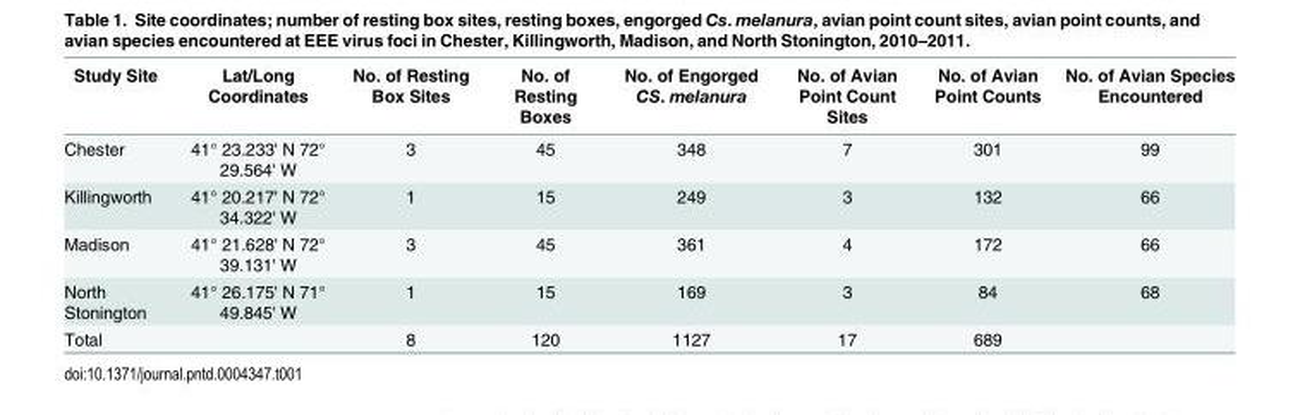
<table><thead><tr><td>Study Site</td><td>Lat/Long Coordinates</td><td>No. of Resting Box Sites</td><td>No. of Resting Boxes</td><td>No. of Engorged CS. melanura</td><td>No. of Avian Point Count Sites</td><td>No. of Avian Point Counts</td><td>No. of Avian Species Encountered</td></tr></thead><tbody><tr><td>Chester</td><td>41° 23.233&#x27; N 72° 29.564&#x27; W</td><td>3</td><td>45</td><td>348</td><td>7</td><td>301</td><td>99</td></tr><tr><td>Killingworth</td><td>41° 20.217&#x27; N 72° 34.322&#x27; W</td><td>1</td><td>15</td><td>249</td><td>3</td><td>132</td><td>66</td></tr><tr><td>Madison</td><td>41° 21.628&#x27; N 72° 39.131&#x27; W</td><td>3</td><td>45</td><td>361</td><td>4</td><td>172</td><td>66</td></tr><tr><td>North Stonington</td><td>41° 26.175&#x27; N 71° 49.845&#x27; W</td><td>1</td><td>15</td><td>169</td><td>3</td><td>84</td><td>68</td></tr><tr><td>Total</td><td></td><td>8</td><td>120</td><td>1127</td><td>17</td><td>689</td><td></td></tr></tbody></table>